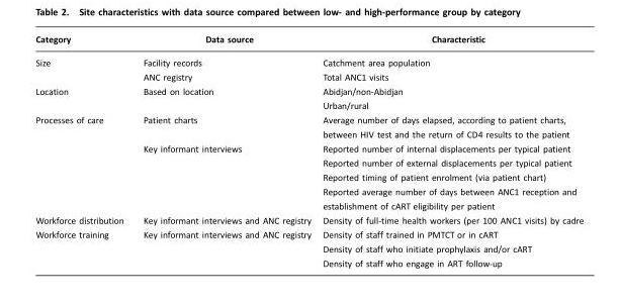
<table><thead><tr><td>Category</td><td>Data source</td><td>Characteristic</td></tr></thead><tbody><tr><td rowspan="2">Size</td><td>Facility records</td><td>Catchment area population</td></tr><tr><td>ANC registry</td><td>Total ANC1 visits</td></tr><tr><td>Location</td><td>Based on location</td><td>Abidjan/non-Abidjan Urban/rural</td></tr><tr><td rowspan="2">Processes of care</td><td>Patient charts</td><td>Average number of days elapsed, according to patient charts, between HIV test and the return of CD4 results to the patient</td></tr><tr><td>Key informant interviews</td><td>Reported number of internal displacements per typical patient Reported number of external displacements per typical patient Reported timing of patient enrolment (via patient chart) Reported average number of days between ANC1 reception and establishment of cART eligibility per patient</td></tr><tr><td>Workforce distribution</td><td>Key informant interviews and ANC registry</td><td>Density of full-time health workers (per 100 ANC1 visits) by cadre</td></tr><tr><td>Workforce training</td><td>Key informant interviews and ANC registry</td><td>Density of staff trained in PMTCT or in cART Density of staff who initiate prophylaxis and/or cART Density of staff who engage in ART follow-up</td></tr></tbody></table>